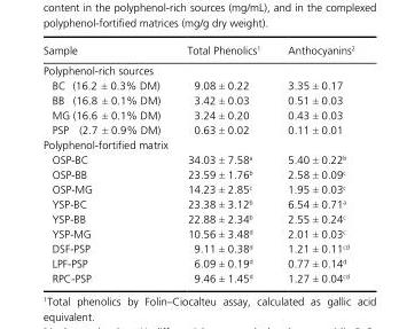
<table><thead><tr><td>Sample</td><td>Total Phenolics<sup>1</sup></td><td>Anthocyanins<sup>2</sup></td></tr></thead><tbody><tr><td colspan="3">Polyphenol- rich sources</td></tr><tr><td>BC (16.2 ± 0.3% DM)</td><td>9.08 ± 0.22</td><td>3.35 ± 0.17</td></tr><tr><td>BB (16.8 ± 0.1% DM)</td><td>3.42 ± 0.03</td><td>0.51 ± 0.03</td></tr><tr><td>MG (16.6 ± 0.1% DM)</td><td>3.24 ± 0.20</td><td>0.43 ± 0.03</td></tr><tr><td>PSP (2.7 ± 0.9% DM)</td><td>0.63 ± 0.02</td><td>0.11 ± 0.01</td></tr><tr><td colspan="3">Polyphenol- fortified matrix</td></tr><tr><td>OSP- BC</td><td>34.03 ± 7.58<sup>a</sup></td><td>5.40 ± 0.22<sup>b</sup></td></tr><tr><td>OSP- BB</td><td>23.59 ± 1.76<sup>b</sup></td><td>2.58 ± 0.09<sup>c</sup></td></tr><tr><td>OSP- MG</td><td>14.23 ± 2.85<sup>c</sup></td><td>1.95 ± 0.03<sup>c</sup></td></tr><tr><td>YSP- BC</td><td>23.38 ± 3.12<sup>b</sup></td><td>6.54 ± 0.71<sup>a</sup></td></tr><tr><td>YSP- BB</td><td>22.88 ± 2.34<sup>b</sup></td><td>2.55 ± 0.24<sup>c</sup></td></tr><tr><td>YSP- MG</td><td>10.56 ± 3.48<sup>d</sup></td><td>2.01 ± 0.03<sup>c</sup></td></tr><tr><td>DSF- PSP</td><td>9.11 ± 0.38<sup>d</sup></td><td>1.21 ± 0.11<sup>cd</sup></td></tr><tr><td>LPF- PSP</td><td>6.09 ± 0.19<sup>d</sup></td><td>0.77 ± 0.14<sup>d</sup></td></tr><tr><td>RPC- PSP</td><td>9.46 ± 1.45<sup>d</sup></td><td>1.27 ± 0.04<sup>cd</sup></td></tr></tbody></table>